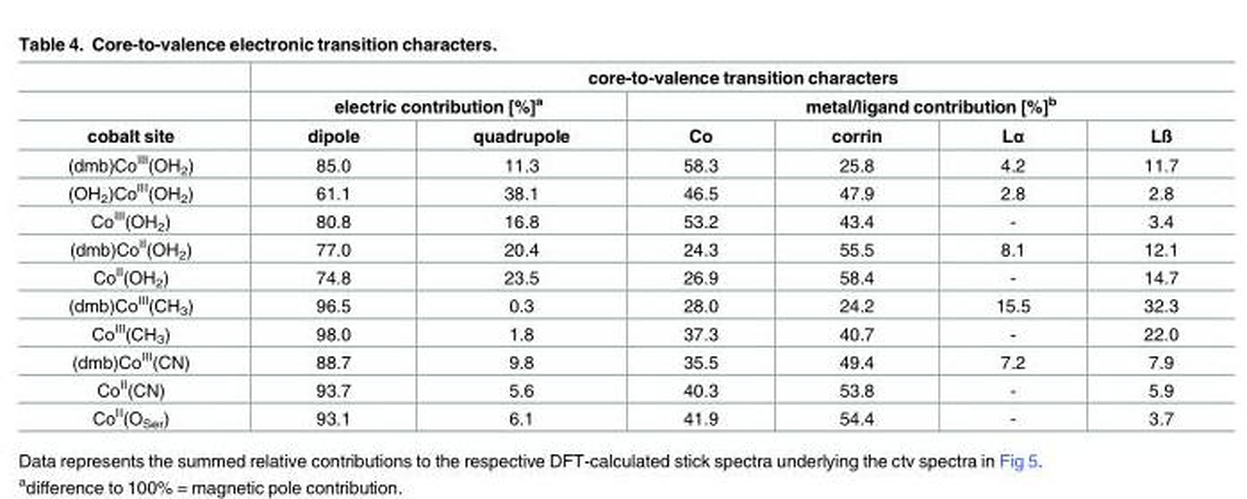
<table><thead><tr><td rowspan="3">cobalt site</td><td colspan="6">core-to-valence transition characters</td></tr><tr><td colspan="2">electric contribution [%]<sup>a</sup></td><td colspan="4">metal/ligand contribution [%]<sup>b</sup></td></tr><tr><td>dipole</td><td>quadrupole</td><td>Co</td><td>corrin</td><td>Lα</td><td>Lß</td></tr></thead><tbody><tr><td>(dmb)Co<sup>III</sup>(OH<sub>2</sub>)</td><td>85.0</td><td>11.3</td><td>58.3</td><td>25.8</td><td>4.2</td><td>11.7</td></tr><tr><td>(OH<sub>2</sub>)Co<sup>III</sup>(OH<sub>2</sub>)</td><td>61.1</td><td>38.1</td><td>46.5</td><td>47.9</td><td>2.8</td><td>2.8</td></tr><tr><td>Co<sup>III</sup>(OH<sub>2</sub>)</td><td>80.8</td><td>16.8</td><td>53.2</td><td>43.4</td><td>-</td><td>3.4</td></tr><tr><td>(dmb)Co<sup>II</sup>(OH<sub>2</sub>)</td><td>77.0</td><td>20.4</td><td>24.3</td><td>55.5</td><td>8.1</td><td>12.1</td></tr><tr><td>Co<sup>II</sup>(OH<sub>2</sub>)</td><td>74.8</td><td>23.5</td><td>26.9</td><td>58.4</td><td>-</td><td>14.7</td></tr><tr><td>(dmb)Co<sup>III</sup>(CH<sub>3</sub>)</td><td>96.5</td><td>0.3</td><td>28.0</td><td>24.2</td><td>15.5</td><td>32.3</td></tr><tr><td>Co<sup>III</sup>(CH<sub>3</sub>)</td><td>98.0</td><td>1.8</td><td>37.3</td><td>40.7</td><td>-</td><td>22.0</td></tr><tr><td>(dmb)Co<sup>III</sup>(CN)</td><td>88.7</td><td>9.8</td><td>35.5</td><td>49.4</td><td>7.2</td><td>7.9</td></tr><tr><td>Co<sup>II</sup>(CN)</td><td>93.7</td><td>5.6</td><td>40.3</td><td>53.8</td><td>-</td><td>5.9</td></tr><tr><td>Co<sup>II</sup>(O<sub>Ser</sub>)</td><td>93.1</td><td>6.1</td><td>41.9</td><td>54.4</td><td>-</td><td>3.7</td></tr></tbody></table>